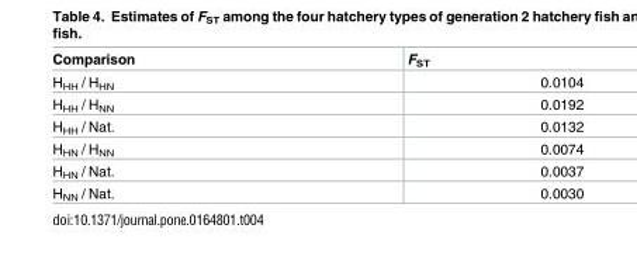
<table><thead><tr><td>Comparison</td><td>F<sub>ST</sub></td></tr></thead><tbody><tr><td>H<sub>HH</sub> / H<sub>HN</sub></td><td>0.0104</td></tr><tr><td>H<sub>HH</sub> / H<sub>NN</sub></td><td>0.0192</td></tr><tr><td>H<sub>HH</sub> / Nat.</td><td>0.0132</td></tr><tr><td>H<sub>HN</sub> / H<sub>NN</sub></td><td>0.0074</td></tr><tr><td>H<sub>HN</sub> / Nat.</td><td>0.0037</td></tr><tr><td>H<sub>NN</sub> / Nat.</td><td>0.0030</td></tr></tbody></table>